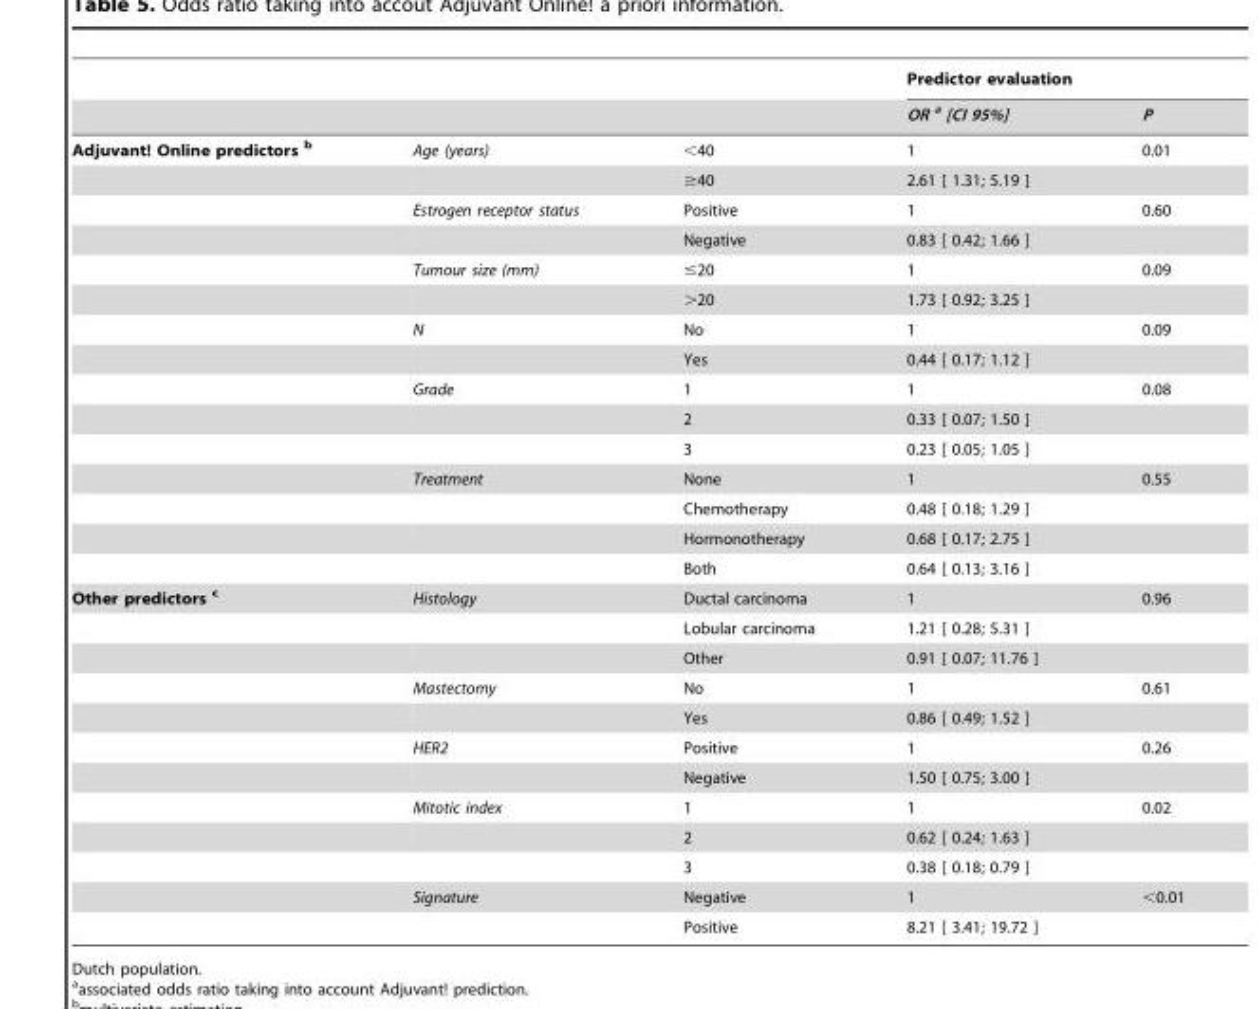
<table><thead><tr><td rowspan="2"></td><td rowspan="2"></td><td rowspan="2"></td><td colspan="2">Predictor evaluation</td></tr><tr><td>OR a [CI 95%]</td><td>P</td></tr></thead><tbody><tr><td rowspan="15">Adjuvant! Online predictors b</td><td>Age (years)</td><td>&lt;40</td><td>1</td><td>0.01</td></tr><tr><td></td><td>≥40</td><td>2.61 [ 1.31; 5.19 ]</td><td></td></tr><tr><td>Estrogen receptor status</td><td>Positive</td><td>1</td><td>0.60</td></tr><tr><td></td><td>Negative</td><td>0.83 [ 0.42; 1.66 ]</td><td></td></tr><tr><td>Tumour size (mm)</td><td>≤20</td><td>1</td><td>0.09</td></tr><tr><td></td><td>&gt;20</td><td>1.73 [ 0.92; 3.25 ]</td><td></td></tr><tr><td>N</td><td>No</td><td>1</td><td>0.09</td></tr><tr><td></td><td>Yes</td><td>0.44 [ 0.17; 1.12 ]</td><td></td></tr><tr><td>Grade</td><td>1</td><td>1</td><td>0.08</td></tr><tr><td></td><td>2</td><td>0.33 [ 0.07; 1.50 ]</td><td></td></tr><tr><td></td><td>3</td><td>0.23 [ 0.05; 1.05 ]</td><td></td></tr><tr><td>Treatment</td><td>None</td><td>1</td><td>0.55</td></tr><tr><td></td><td>Chemotherapy</td><td>0.48 [ 0.18; 1.29 ]</td><td></td></tr><tr><td></td><td>Hormonotherapy</td><td>0.68 [ 0.17; 2.75 ]</td><td></td></tr><tr><td></td><td>Both</td><td>0.64 [ 0.13; 3.16 ]</td><td></td></tr><tr><td rowspan="12">Other predictors c</td><td>Histology</td><td>Ductal carcinoma</td><td>1</td><td>0.96</td></tr><tr><td></td><td>Lobular carcinoma</td><td>1.21 [ 0.28; 5.31 ]</td><td></td></tr><tr><td></td><td>Other</td><td>0.91 [ 0.07; 11.76 ]</td><td></td></tr><tr><td>Mastectomy</td><td>No</td><td>1</td><td>0.61</td></tr><tr><td></td><td>Yes</td><td>0.86 [ 0.49; 1.52 ]</td><td></td></tr><tr><td>HER2</td><td>Positive</td><td>1</td><td>0.26</td></tr><tr><td></td><td>Negative</td><td>1.50 [ 0.75; 3.00 ]</td><td></td></tr><tr><td>Mitotic index</td><td>1</td><td>1</td><td>0.02</td></tr><tr><td></td><td>2</td><td>0.62 [ 0.24; 1.63 ]</td><td></td></tr><tr><td></td><td>3</td><td>0.38 [ 0.18; 0.79 ]</td><td></td></tr><tr><td>Signature</td><td>Negative</td><td>1</td><td>&lt;0.01</td></tr><tr><td></td><td>Positive</td><td>8.21 [ 3.41; 19.72 ]</td><td></td></tr></tbody></table>